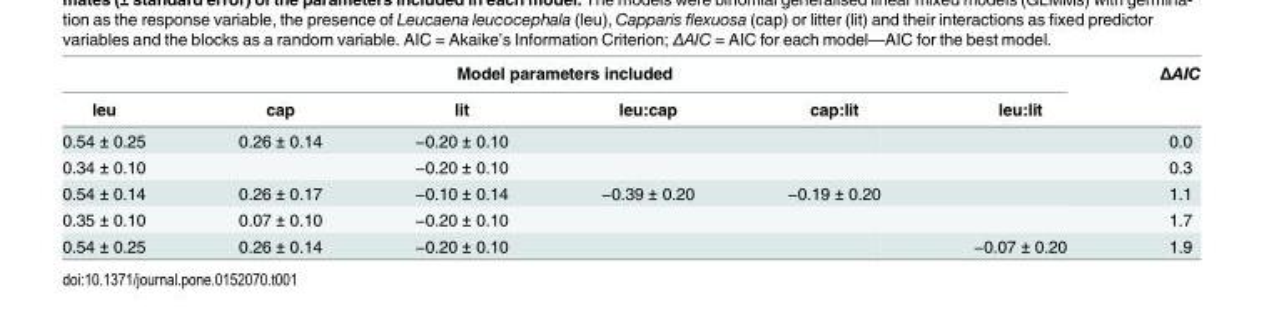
<table><thead><tr><td colspan="6">Model parameters included</td><td rowspan="2">ΔAIC</td></tr><tr><td>leu</td><td>cap</td><td>lit</td><td>leu:cap</td><td>cap:lit</td><td>leu:lit</td></tr></thead><tbody><tr><td>0.54 ± 0.25</td><td>0.26 ± 0.14</td><td>−0.20 ± 0.10</td><td></td><td></td><td></td><td>0.0</td></tr><tr><td>0.34 ± 0.10</td><td></td><td>−0.20 ± 0.10</td><td></td><td></td><td></td><td>0.3</td></tr><tr><td>0.54 ± 0.14</td><td>0.26 ± 0.17</td><td>−0.10 ± 0.14</td><td>−0.39 ± 0.20</td><td>−0.19 ± 0.20</td><td></td><td>1.1</td></tr><tr><td>0.35 ± 0.10</td><td>0.07 ± 0.10</td><td>−0.20 ± 0.10</td><td></td><td></td><td></td><td>1.7</td></tr><tr><td>0.54 ± 0.25</td><td>0.26 ± 0.14</td><td>−0.20 ± 0.10</td><td></td><td></td><td>−0.07 ± 0.20</td><td>1.9</td></tr></tbody></table>